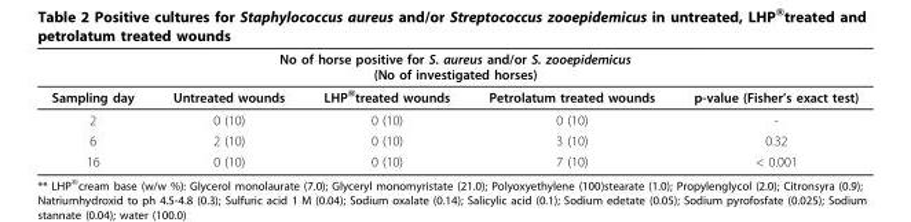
<table><thead><tr><td colspan="5">No of horse positive for S. aureus and/or S. zooepidemicus (No of investigated horses)</td></tr><tr><td>Sampling day</td><td>Untreated wounds</td><td>LHP<sup>®</sup>treated wounds</td><td>Petrolatum treated wounds</td><td>p-value (Fisher’s exact test)</td></tr></thead><tbody><tr><td>2</td><td>0 (10)</td><td>0 (10)</td><td>0 (10)</td><td>-</td></tr><tr><td>6</td><td>2 (10)</td><td>0 (10)</td><td>3 (10)</td><td>0.32</td></tr><tr><td>16</td><td>0 (10)</td><td>0 (10)</td><td>7 (10)</td><td>&lt; 0.001</td></tr></tbody></table>